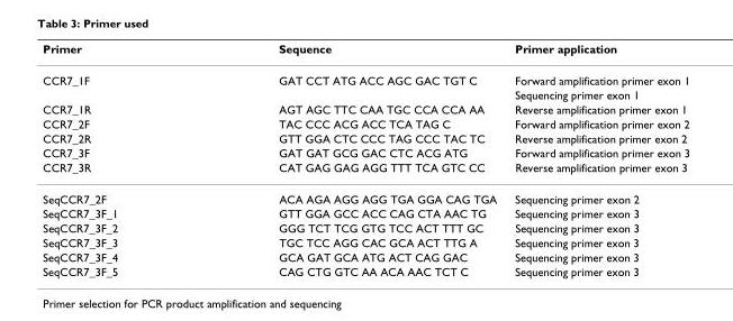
<table><thead><tr><td>Primer</td><td>Sequence</td><td>Primer application</td></tr></thead><tbody><tr><td rowspan="2">CCR7_1F</td><td>GAT CCT ATG ACC AGC GAC TGT C</td><td>Forward amplification primer exon 1</td></tr><tr><td></td><td>Sequencing primer exon 1</td></tr><tr><td>CCR7_1R</td><td>AGT AGC TTC CAA TGC CCA CCA AA</td><td>Reverse amplification primer exon 1</td></tr><tr><td>CCR7_2F</td><td>TAC CCC ACG ACC TCA TAG C</td><td>Forward amplification primer exon 2</td></tr><tr><td>CCR7_2R</td><td>GTT GGA CTC CCC TAG CCC TAC TC</td><td>Reverse amplification primer exon 2</td></tr><tr><td>CCR7_3F</td><td>GAT GAT GCG GAC CTC ACG ATG</td><td>Forward amplification primer exon 3</td></tr><tr><td>CCR7_3R</td><td>CAT GAG GAG AGG TTT TCA GTC CC</td><td>Reverse amplification primer exon 3</td></tr><tr><td>SeqCCR7_2F</td><td>ACA AGA AGG AGG TGA GGA CAG TGA</td><td>Sequencing primer exon 2</td></tr><tr><td>SeqCCR7_3F_1</td><td>GTT GGA GCC ACC CAG CTA AAC TG</td><td>Sequencing primer exon 3</td></tr><tr><td>SeqCCR7_3F_2</td><td>GGG TCT TCG GTG TCC ACT TTT GC</td><td>Sequencing primer exon 3</td></tr><tr><td>SeqCCR7_3F_3</td><td>TGC TCC AGG CAC GCA ACT TTG A</td><td>Sequencing primer exon 3</td></tr><tr><td>SeqCCR7_3F_4</td><td>GCA GAT GCA ATG ACT CAG GAC</td><td>Sequencing primer exon 3</td></tr><tr><td>SeqCCR7_3F_5</td><td>CAG CTG GTC AA ACA AAC TCT C</td><td>Sequencing primer exon 3</td></tr></tbody></table>